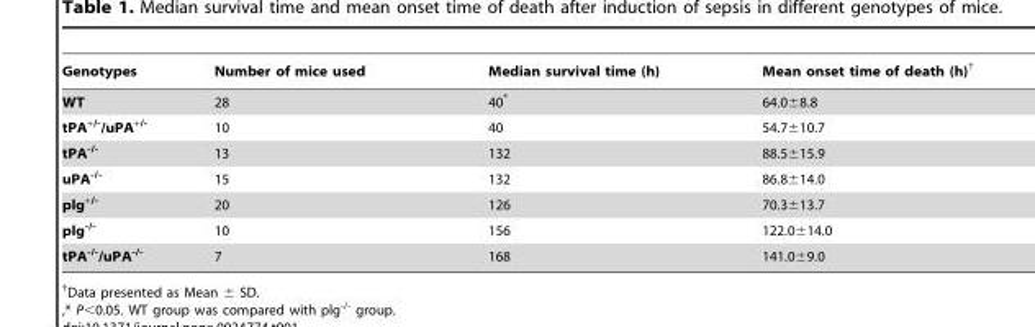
<table><thead><tr><td>Genotypes</td><td>Number of mice used</td><td>Median survival time (h)</td><td>Mean onset time of death (h)†</td></tr></thead><tbody><tr><td>WT</td><td>28</td><td>40*</td><td>64.0±8.8</td></tr><tr><td>tPA<sup>+/-</sup>/uPA<sup>+/-</sup></td><td>10</td><td>40</td><td>54.7±10.7</td></tr><tr><td>tPA<sup>-/-</sup></td><td>13</td><td>132</td><td>88.5±15.9</td></tr><tr><td>uPA<sup>-/-</sup></td><td>15</td><td>132</td><td>86.8±14.0</td></tr><tr><td>plg<sup>+/-</sup></td><td>20</td><td>126</td><td>70.3±13.7</td></tr><tr><td>plg<sup>-/-</sup></td><td>10</td><td>156</td><td>122.0±14.0</td></tr><tr><td>tPA<sup>-/-</sup>/uPA<sup>-/-</sup></td><td>7</td><td>168</td><td>141.0±9.0</td></tr></tbody></table>